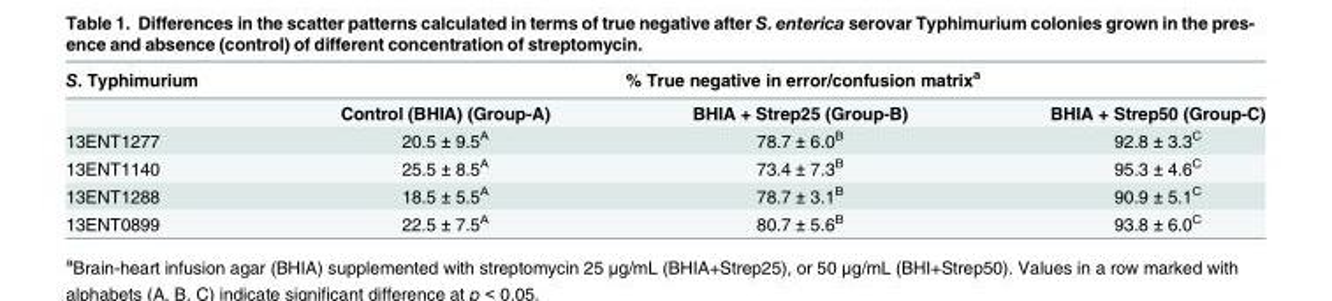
<table><thead><tr><td rowspan="2">S. Typhimurium</td><td colspan="3">% True negative in error/confusion matrix<sup>a</sup></td></tr><tr><td>Control (BHIA) (Group-A)</td><td>BHIA + Strep25 (Group-B)</td><td>BHIA + Strep50 (Group-C)</td></tr></thead><tbody><tr><td>13ENT1277</td><td>20.5 ± 9.5<sup>A</sup></td><td>78.7 ± 6.0<sup>B</sup></td><td>92.8 ± 3.3<sup>C</sup></td></tr><tr><td>13ENT1140</td><td>25.5 ± 8.5<sup>A</sup></td><td>73.4 ± 7.3<sup>B</sup></td><td>95.3 ± 4.6<sup>C</sup></td></tr><tr><td>13ENT1288</td><td>18.5 ± 5.5<sup>A</sup></td><td>78.7 ± 3.1<sup>B</sup></td><td>90.9 ± 5.1<sup>C</sup></td></tr><tr><td>13ENT0899</td><td>22.5 ± 7.5<sup>A</sup></td><td>80.7 ± 5.6<sup>B</sup></td><td>93.8 ± 6.0<sup>C</sup></td></tr></tbody></table>